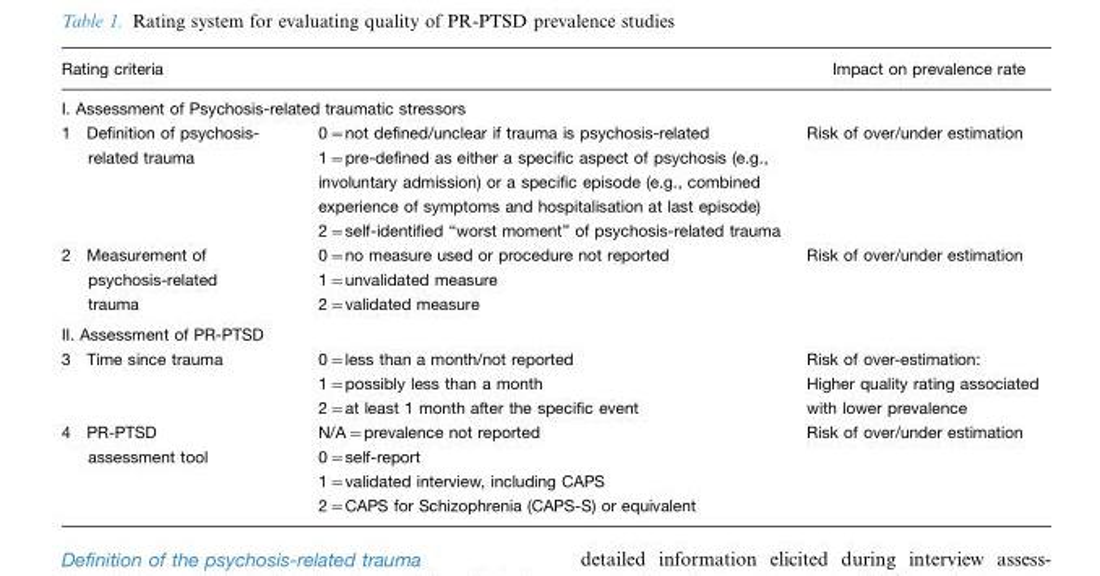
<table><thead><tr><td colspan="2">Rating criteria</td><td>Impact on prevalence rate</td></tr><tr><td colspan="3">I. Assessment of Psychosis-related traumatic stressors</td></tr><tr><td>1 Definition of psychosis- related trauma</td><td>0�not defined/unclear if trauma is psychosis-related 1�pre-defined as either a specific aspect of psychosis (e.g., involuntary admission) or a specific episode (e.g., combined experience of symptoms and hospitalisation at last episode) 2�self-identified ‘‘worst moment’’ of psychosis-related trauma</td><td>Risk of over/under estimation</td></tr></thead><tbody><tr><td>2 Measurement of psychosis-related trauma</td><td>0=no measure used or procedure not reported 1=unvalidated measure 2=validated measure</td><td>Risk of over/under estimation</td></tr><tr><td colspan="3">II. Assessment of PR-PTSD</td></tr><tr><td>3 Time since trauma</td><td>0=less than a month/not reported 1=possibly less than a month 2=at least 1 month after the specific event</td><td>Risk of over-estimation: Higher quality rating associated with lower prevalence</td></tr><tr><td>4 PR-PTSD assessment tool</td><td>N/A=prevalence not reported 0=self-report 1=validated interview, including CAPS 2=CAPS for Schizophrenia (CAPS-S) or equivalent</td><td>Risk of over/under estimation</td></tr></tbody></table>